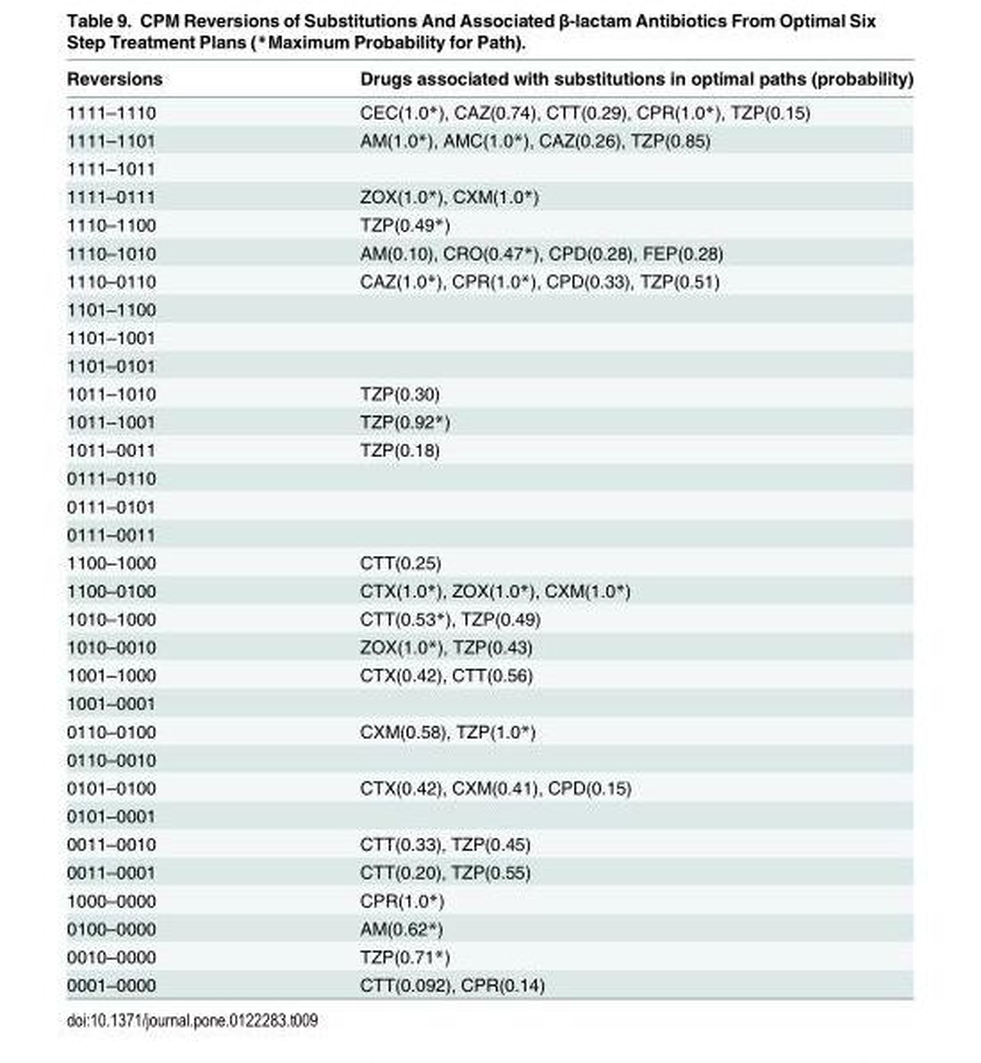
<table><thead><tr><td>Reversions</td><td>Drugs associated with substitutions in optimal paths (probability)</td></tr></thead><tbody><tr><td>1111–1110</td><td>CEC(1.0*), CAZ(0.74), CTT(0.29), CPR(1.0*), TZP(0.15)</td></tr><tr><td>1111–1101</td><td>AM(1.0*), AMC(1.0*), CAZ(0.26), TZP(0.85)</td></tr><tr><td colspan="2">1111–1011</td></tr><tr><td>1111–0111</td><td>ZOX(1.0*), CXM(1.0*)</td></tr><tr><td>1110–1100</td><td>TZP(0.49*)</td></tr><tr><td>1110–1010</td><td>AM(0.10), CRO(0.47*), CPD(0.28), FEP(0.28)</td></tr><tr><td>1110–0110</td><td>CAZ(1.0*), CPR(1.0*), CPD(0.33), TZP(0.51)</td></tr><tr><td colspan="2">1101–1100</td></tr><tr><td colspan="2">1101–1001</td></tr><tr><td colspan="2">1101–0101</td></tr><tr><td>1011–1010</td><td>TZP(0.30)</td></tr><tr><td>1011–1001</td><td>TZP(0.92*)</td></tr><tr><td>1011–0011</td><td>TZP(0.18)</td></tr><tr><td colspan="2">0111–0110</td></tr><tr><td colspan="2">0111–0101</td></tr><tr><td colspan="2">0111–0011</td></tr><tr><td>1100–1000</td><td>CTT(0.25)</td></tr><tr><td>1100–0100</td><td>CTX(1.0*), ZOX(1.0*), CXM(1.0*)</td></tr><tr><td>1010–1000</td><td>CTT(0.53*), TZP(0.49)</td></tr><tr><td>1010–0010</td><td>ZOX(1.0*), TZP(0.43)</td></tr><tr><td>1001–1000</td><td>CTX(0.42), CTT(0.56)</td></tr><tr><td colspan="2">1001–0001</td></tr><tr><td>0110–0100</td><td>CXM(0.58), TZP(1.0*)</td></tr><tr><td colspan="2">0110–0010</td></tr><tr><td>0101–0100</td><td>CTX(0.42), CXM(0.41), CPD(0.15)</td></tr><tr><td colspan="2">0101–0001</td></tr><tr><td>0011–0010</td><td>CTT(0.33), TZP(0.45)</td></tr><tr><td>0011–0001</td><td>CTT(0.20), TZP(0.55)</td></tr><tr><td>1000–0000</td><td>CPR(1.0*)</td></tr><tr><td>0100–0000</td><td>AM(0.62*)</td></tr><tr><td>0010–0000</td><td>TZP(0.71*)</td></tr><tr><td>0001–0000</td><td>CTT(0.092), CPR(0.14)</td></tr></tbody></table>